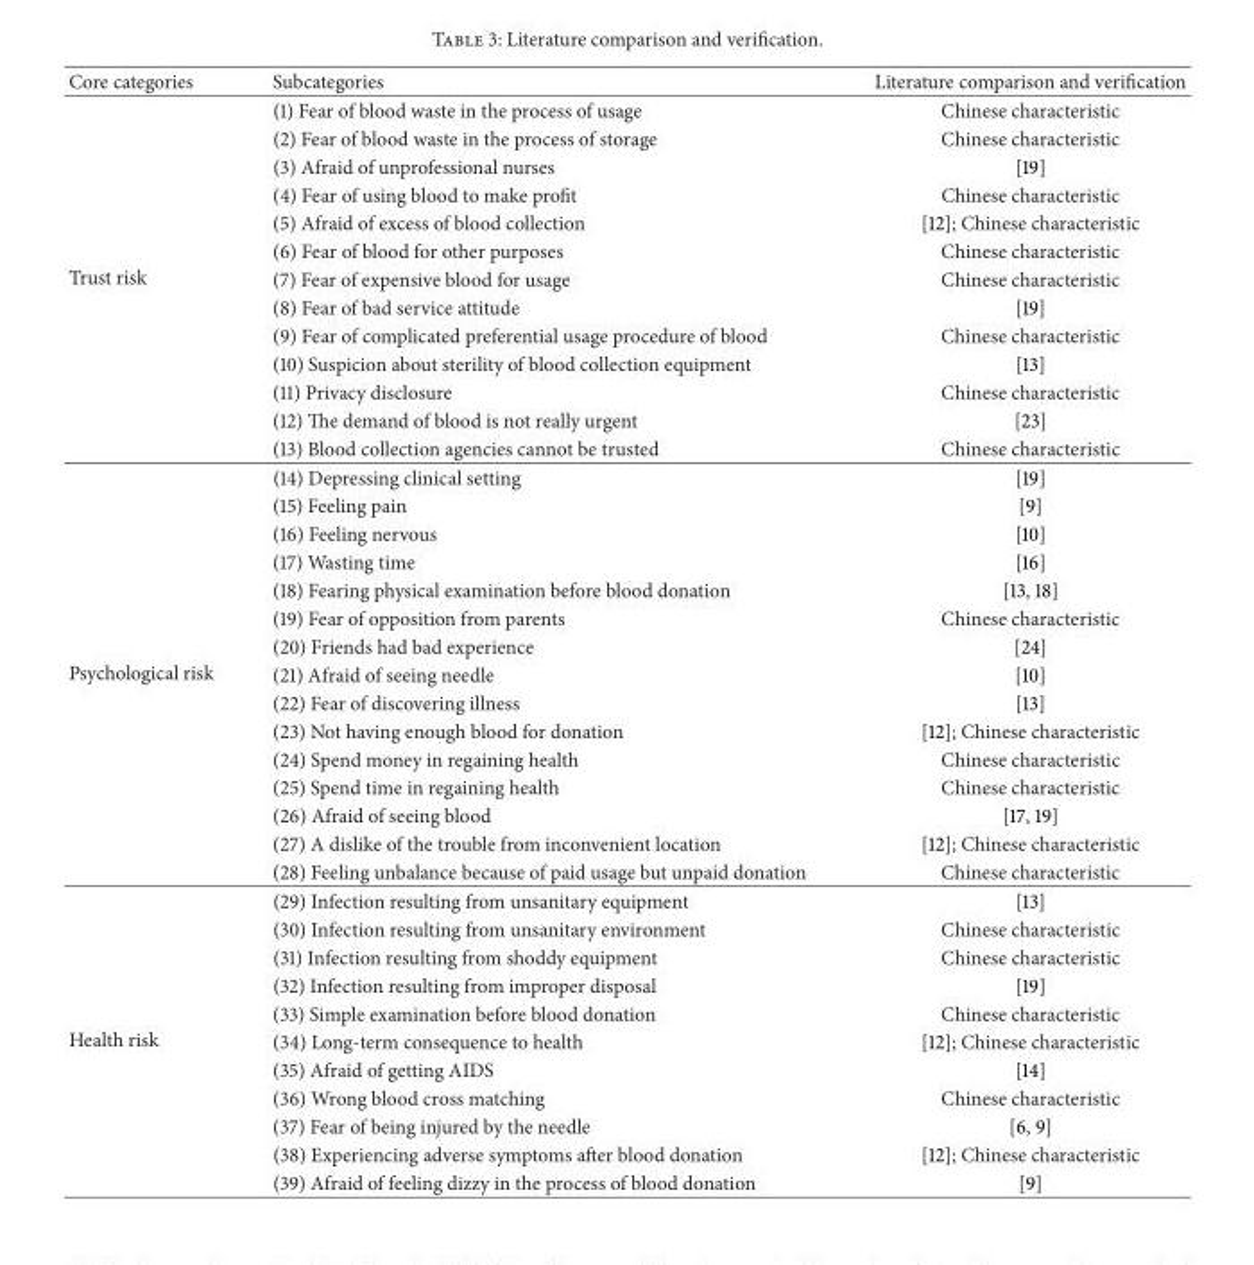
<table><thead><tr><td>Core categories</td><td>Subcategories</td><td>Literature comparison and verification</td></tr></thead><tbody><tr><td rowspan="13">Trust risk</td><td>(1) Fear of blood waste in the process of usage</td><td>Chinese characteristic</td></tr><tr><td>(2) Fear of blood waste in the process of storage</td><td>Chinese characteristic</td></tr><tr><td>(3) Afraid of unprofessional nurses</td><td>[19]</td></tr><tr><td>(4) Fear of using blood to make profit</td><td>Chinese characteristic</td></tr><tr><td>(5) Afraid of excess of blood collection</td><td>[12]; Chinese characteristic</td></tr><tr><td>(6) Fear of blood for other purposes</td><td>Chinese characteristic</td></tr><tr><td>(7) Fear of expensive blood for usage</td><td>Chinese characteristic</td></tr><tr><td>(8) Fear of bad service attitude</td><td>[19]</td></tr><tr><td>(9) Fear of complicated preferential usage procedure of blood</td><td>Chinese characteristic</td></tr><tr><td>(10) Suspicion about sterility of blood collection equipment</td><td>[13]</td></tr><tr><td>(11) Privacy disclosure</td><td>Chinese characteristic</td></tr><tr><td>(12) The demand of blood is not really urgent</td><td>[23]</td></tr><tr><td>(13) Blood collection agencies cannot be trusted</td><td>Chinese characteristic</td></tr><tr><td rowspan="15">Psychological risk</td><td>(14) Depressing clinical setting</td><td>[19]</td></tr><tr><td>(15) Feeling pain</td><td>[9]</td></tr><tr><td>(16) Feeling nervous</td><td>[10]</td></tr><tr><td>(17) Wasting time</td><td>[16]</td></tr><tr><td>(18) Fearing physical examination before blood donation</td><td>[13, 18]</td></tr><tr><td>(19) Fear of opposition from parents</td><td>Chinese characteristic</td></tr><tr><td>(20) Friends had bad experience</td><td>[24]</td></tr><tr><td>(21) Afraid of seeing needle</td><td>[10]</td></tr><tr><td>(22) Fear of discovering illness</td><td>[13]</td></tr><tr><td>(23) Not having enough blood for donation</td><td>[12]; Chinese characteristic</td></tr><tr><td>(24) Spend money in regaining health</td><td>Chinese characteristic</td></tr><tr><td>(25) Spend time in regaining health</td><td>Chinese characteristic</td></tr><tr><td>(26) Afraid of seeing blood</td><td>[17, 19]</td></tr><tr><td>(27) A dislike of the trouble from inconvenient location</td><td>[12]; Chinese characteristic</td></tr><tr><td>(28) Feeling unbalance because of paid usage but unpaid donation</td><td>Chinese characteristic</td></tr><tr><td rowspan="11">Health risk</td><td>(29) Infection resulting from unsanitary equipment</td><td>[13]</td></tr><tr><td>(30) Infection resulting from unsanitary environment</td><td>Chinese characteristic</td></tr><tr><td>(31) Infection resulting from shoddy equipment</td><td>Chinese characteristic</td></tr><tr><td>(32) Infection resulting from improper disposal</td><td>[19]</td></tr><tr><td>(33) Simple examination before blood donation</td><td>Chinese characteristic</td></tr><tr><td>(34) Long-term consequence to health</td><td>[12]; Chinese characteristic</td></tr><tr><td>(35) Afraid of getting AIDS</td><td>[14]</td></tr><tr><td>(36) Wrong blood cross matching</td><td>Chinese characteristic</td></tr><tr><td>(37) Fear of being injured by the needle</td><td>[6, 9]</td></tr><tr><td>(38) Experiencing adverse symptoms after blood donation</td><td>[12]; Chinese characteristic</td></tr><tr><td>(39) Afraid of feeling dizzy in the process of blood donation</td><td>[9]</td></tr></tbody></table>